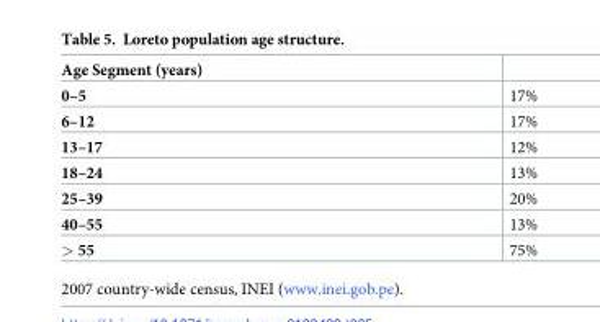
<table><thead><tr><td>Age Segment (years)</td><td></td></tr></thead><tbody><tr><td>0–5</td><td>17%</td></tr><tr><td>6–12</td><td>17%</td></tr><tr><td>13–17</td><td>12%</td></tr><tr><td>18–24</td><td>13%</td></tr><tr><td>25–39</td><td>20%</td></tr><tr><td>40–55</td><td>13%</td></tr><tr><td>&gt; 55</td><td>75%</td></tr></tbody></table>